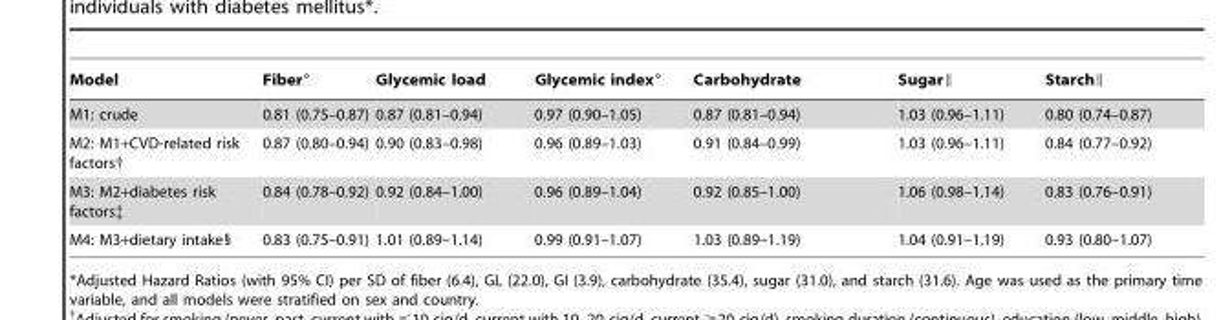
<table><thead><tr><td>Model</td><td>Fiber°</td><td>Glycemic load</td><td>Glycemic index°</td><td>Carbohydrate</td><td>Sugar∥</td><td>Starch∥</td></tr></thead><tbody><tr><td>M1: crude</td><td>0.81 (0.75–0.87)</td><td>0.87 (0.81–0.94)</td><td>0.97 (0.90–1.05)</td><td>0.87 (0.81–0.94)</td><td>1.03 (0.96–1.11)</td><td>0.80 (0.74–0.87)</td></tr><tr><td>M2: M1+CVD-related risk factors†</td><td>0.87 (0.80–0.94)</td><td>0.90 (0.83–0.98)</td><td>0.96 (0.89–1.03)</td><td>0.91 (0.84–0.99)</td><td>1.03 (0.96–1.11)</td><td>0.84 (0.77–0.92)</td></tr><tr><td>M3: M2+diabetes risk factors‡</td><td>0.84 (0.78–0.92)</td><td>0.92 (0.84–1.00)</td><td>0.96 (0.89–1.04)</td><td>0.92 (0.85–1.00)</td><td>1.06 (0.98–1.14)</td><td>0.83 (0.76–0.91)</td></tr><tr><td>M4: M3+dietary intake§</td><td>0.83 (0.75–0.91)</td><td>1.01 (0.89–1.14)</td><td>0.99 (0.91–1.07)</td><td>1.03 (0.89–1.19)</td><td>1.04 (0.91–1.19)</td><td>0.93 (0.80–1.07)</td></tr></tbody></table>